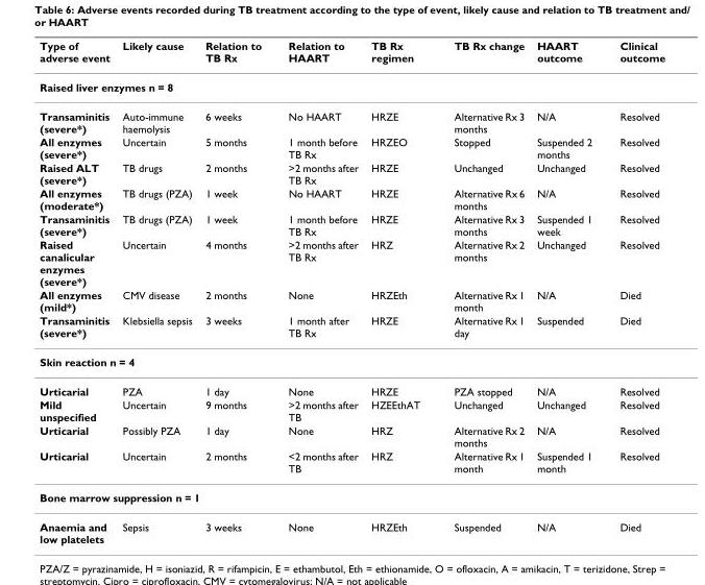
<table><thead><tr><td>Type of adverse event</td><td>Likely cause</td><td>Relation to TB Rx</td><td>Relation to HAART</td><td>TB Rx regimen</td><td>TB Rx change</td><td>HAART outcome</td><td>Clinical outcome</td></tr></thead><tbody><tr><td colspan="8">Raised liver enzymes n = 8</td></tr><tr><td>Transaminitis (severe*)</td><td>Auto-immune haemolysis</td><td>6 weeks</td><td>No HAART</td><td>HRZE</td><td>Alternative Rx 3 months</td><td>N/A</td><td>Resolved</td></tr><tr><td>All enzymes (severe*)</td><td>Uncertain</td><td>5 months</td><td>1 month before TB Rx</td><td>HRZEO</td><td>Stopped</td><td>Suspended 2 months</td><td>Resolved</td></tr><tr><td>Raised ALT (severe*)</td><td>TB drugs</td><td>2 months</td><td>&gt;2 months after TB Rx</td><td>HRZE</td><td>Unchanged</td><td>Unchanged</td><td>Resolved</td></tr><tr><td>All enzymes (moderate*)</td><td>TB drugs (PZA)</td><td>1 week</td><td>No HAART</td><td>HRZE</td><td>Alternative Rx 6 months</td><td>N/A</td><td>Resolved</td></tr><tr><td>Transaminitis (severe*)</td><td>TB drugs (PZA)</td><td>1 week</td><td>1 month before TB Rx</td><td>HRZE</td><td>Alternative Rx 3 months</td><td>Suspended 1 week</td><td>Resolved</td></tr><tr><td>Raised canalicular enzymes (severe*)</td><td>Uncertain</td><td>4 months</td><td>&gt;2 months after TB Rx</td><td>HRZ</td><td>Alternative Rx 2 months</td><td>Unchanged</td><td>Resolved</td></tr><tr><td>All enzymes (mild*)</td><td>CMV disease</td><td>2 months</td><td>None</td><td>HRZEth</td><td>Alternative Rx 1 month</td><td>N/A</td><td>Died</td></tr><tr><td>Transaminitis (severe*)</td><td>Klebsiella sepsis</td><td>3 weeks</td><td>1 month after TB Rx</td><td>HRZE</td><td>Alternative Rx 1 day</td><td>Suspended</td><td>Died</td></tr><tr><td colspan="8">Skin reaction n = 4</td></tr><tr><td>Urticarial</td><td>PZA</td><td>1 day</td><td>None</td><td>HRZE</td><td>PZA stopped</td><td>N/A</td><td>Resolved</td></tr><tr><td>Mild unspecified</td><td>Uncertain</td><td>9 months</td><td>&gt;2 months after TB</td><td>HZEEthAT</td><td>Unchanged</td><td>Unchanged</td><td>Resolved</td></tr><tr><td>Urticarial</td><td>Possibly PZA</td><td>1 day</td><td>None</td><td>HRZ</td><td>Alternative Rx 2 months</td><td>N/A</td><td>Resolved</td></tr><tr><td>Urticarial</td><td>Uncertain</td><td>2 months</td><td>&lt;2 months after TB</td><td>HRZ</td><td>Alternative Rx 1 month</td><td>Suspended 1 month</td><td>Resolved</td></tr><tr><td colspan="8">Bone marrow suppression n = 1</td></tr><tr><td>Anaemia and low platelets</td><td>Sepsis</td><td>3 weeks</td><td>None</td><td>HRZEth</td><td>Suspended</td><td>N/A</td><td>Died</td></tr></tbody></table>